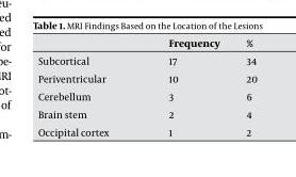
<table><thead><tr><td></td><td>Frequency</td><td>%</td></tr></thead><tbody><tr><td>Subcortical</td><td>17</td><td>34</td></tr><tr><td>Periventricular</td><td>10</td><td>20</td></tr><tr><td>Cerebellum</td><td>3</td><td>6</td></tr><tr><td>Brain stem</td><td>2</td><td>4</td></tr><tr><td>Occipital cortex</td><td>1</td><td>2</td></tr></tbody></table>